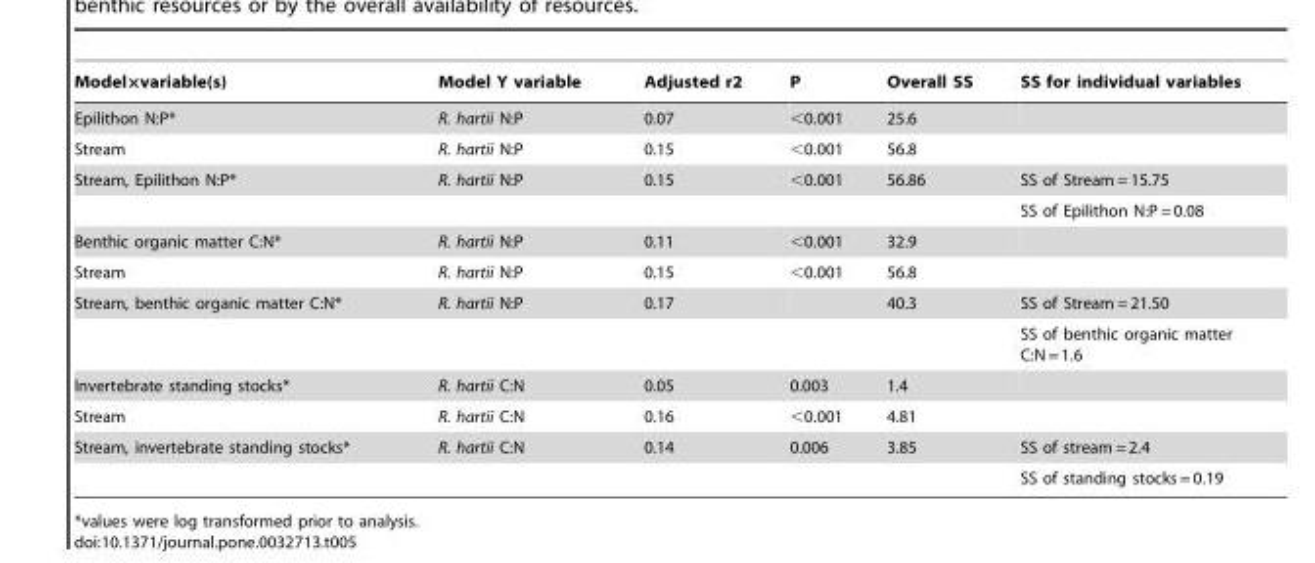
<table><thead><tr><td>Model×variable(s)</td><td>Model Y variable</td><td>Adjusted r2</td><td>P</td><td>Overall SS</td><td>SS for individual variables</td></tr></thead><tbody><tr><td>Epilithon N:P*</td><td>R. hartii N:P</td><td>0.07</td><td>&lt;0.001</td><td>25.6</td><td></td></tr><tr><td>Stream</td><td>R. hartii N:P</td><td>0.15</td><td>&lt;0.001</td><td>56.8</td><td></td></tr><tr><td rowspan="2">Stream, Epilithon N:P*</td><td>R. hartii N:P</td><td>0.15</td><td>&lt;0.001</td><td>56.86</td><td>SS of Stream = 15.75</td></tr><tr><td></td><td></td><td></td><td></td><td>SS of Epilithon N:P = 0.08</td></tr><tr><td>Benthic organic matter C:N*</td><td>R. hartii N:P</td><td>0.11</td><td>&lt;0.001</td><td>32.9</td><td></td></tr><tr><td>Stream</td><td>R. hartii N:P</td><td>0.15</td><td>&lt;0.001</td><td>56.8</td><td></td></tr><tr><td rowspan="2">Stream, benthic organic matter C:N*</td><td>R. hartii N:P</td><td>0.17</td><td></td><td>40.3</td><td>SS of Stream = 21.50</td></tr><tr><td></td><td></td><td></td><td></td><td>SS of benthic organic matter C:N = 1.6</td></tr><tr><td>Invertebrate standing stocks*</td><td>R. hartii C:N</td><td>0.05</td><td>0.003</td><td>1.4</td><td></td></tr><tr><td>Stream</td><td>R. hartii C:N</td><td>0.16</td><td>&lt;0.001</td><td>4.81</td><td></td></tr><tr><td rowspan="2">Stream, invertebrate standing stocks*</td><td>R. hartii C:N</td><td>0.14</td><td>0.006</td><td>3.85</td><td>SS of stream = 2.4</td></tr><tr><td></td><td></td><td></td><td></td><td>SS of standing stocks = 0.19</td></tr></tbody></table>